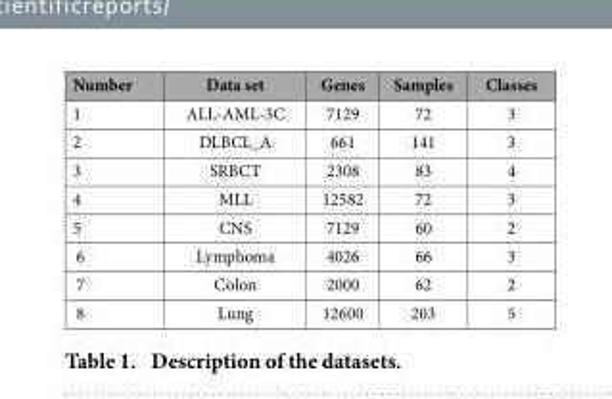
<table><thead><tr><td>Number</td><td>Data set</td><td>Genes</td><td>Samples</td><td>Classes</td></tr></thead><tbody><tr><td>1</td><td>ALL-AML-3C</td><td>7129</td><td>72</td><td>3</td></tr><tr><td>2</td><td>DLBCL_A</td><td>661</td><td>141</td><td>3</td></tr><tr><td>3</td><td>SRBCT</td><td>2308</td><td>83</td><td>4</td></tr><tr><td>4</td><td>MLL</td><td>12582</td><td>72</td><td>3</td></tr><tr><td>5</td><td>CNS</td><td>7129</td><td>60</td><td>2</td></tr><tr><td>6</td><td>Lymphoma</td><td>4026</td><td>66</td><td>3</td></tr><tr><td>7</td><td>Colon</td><td>2000</td><td>62</td><td>2</td></tr><tr><td>8</td><td>Lung</td><td>12600</td><td>203</td><td>5</td></tr></tbody></table>